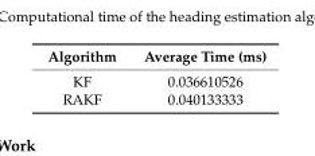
<table><thead><tr><td>Algorithm</td><td>Average Time (ms)</td></tr></thead><tbody><tr><td>KF</td><td>0.036610526</td></tr><tr><td>RAKF</td><td>0.040133333</td></tr></tbody></table>